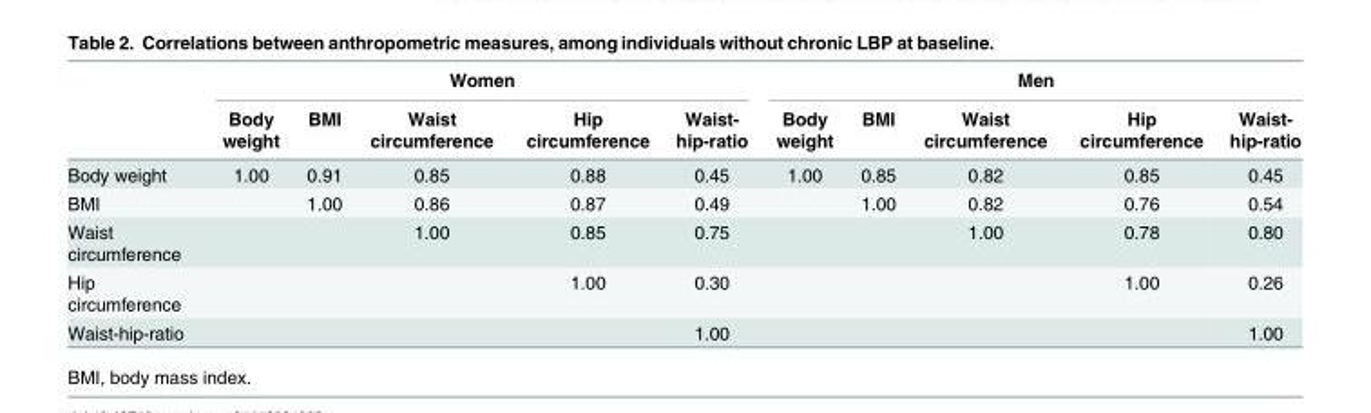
<table><thead><tr><td rowspan="2"></td><td colspan="5">Women</td><td colspan="5">Men</td></tr><tr><td>Body weight</td><td>BMI</td><td>Waist circumference</td><td>Hip circumference</td><td>Waist- hip-ratio</td><td>Body weight</td><td>BMI</td><td>Waist circumference</td><td>Hip circumference</td><td>Waist- hip-ratio</td></tr></thead><tbody><tr><td>Body weight</td><td>1.00</td><td>0.91</td><td>0.85</td><td>0.88</td><td>0.45</td><td>1.00</td><td>0.85</td><td>0.82</td><td>0.85</td><td>0.45</td></tr><tr><td>BMI</td><td></td><td>1.00</td><td>0.86</td><td>0.87</td><td>0.49</td><td></td><td>1.00</td><td>0.82</td><td>0.76</td><td>0.54</td></tr><tr><td>Waist circumference</td><td></td><td></td><td>1.00</td><td>0.85</td><td>0.75</td><td></td><td></td><td>1.00</td><td>0.78</td><td>0.80</td></tr><tr><td>Hip circumference</td><td></td><td></td><td></td><td>1.00</td><td>0.30</td><td></td><td></td><td></td><td>1.00</td><td>0.26</td></tr><tr><td>Waist-hip-ratio</td><td></td><td></td><td></td><td></td><td>1.00</td><td></td><td></td><td></td><td></td><td>1.00</td></tr></tbody></table>